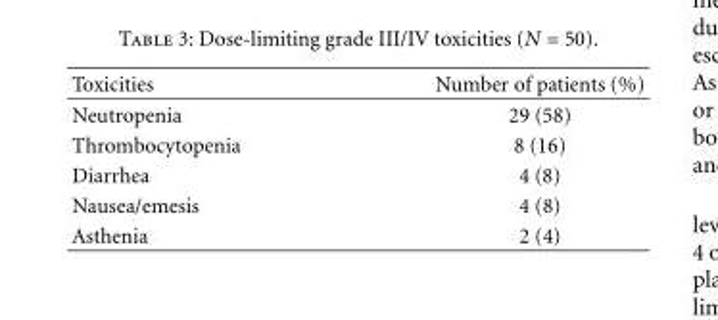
<table><thead><tr><td>Toxicities</td><td>Number of patients (%)</td></tr></thead><tbody><tr><td>Neutropenia</td><td>29 (58)</td></tr><tr><td>Thrombocytopenia</td><td>8 (16)</td></tr><tr><td>Diarrhea</td><td>4 (8)</td></tr><tr><td>Nausea/emesis</td><td>4 (8)</td></tr><tr><td>Asthenia</td><td>2 (4)</td></tr></tbody></table>